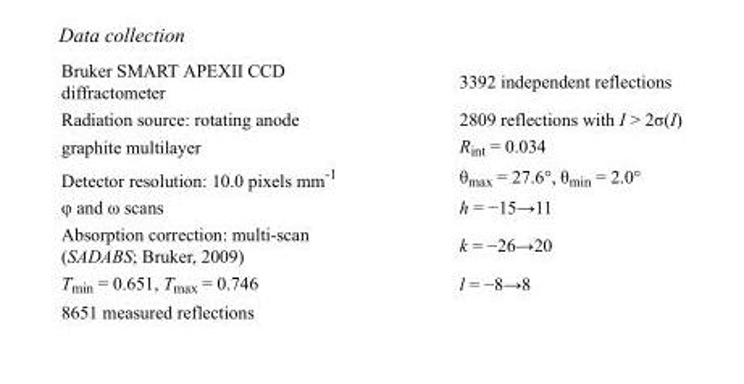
<table><tbody><tr><td>Bruker SMART APEXII CCD diffractometer</td><td>3392 independent reflections</td></tr><tr><td>Radiation source: rotating anode</td><td>2809 reflections with I &gt; 2σ(I)</td></tr><tr><td>graphite multilayer</td><td>R<sub>int</sub> = 0.034</td></tr><tr><td>Detector resolution: 10.0 pixels mm<sup>-1</sup></td><td>θ<sub>max</sub> = 27.6°, θ<sub>min</sub> = 2.0°</td></tr><tr><td>φ and ω scans</td><td>h = −15→11</td></tr><tr><td>Absorption correction: multi-scan (SADABS; Bruker, 2009)</td><td>k = −26→20</td></tr><tr><td>T<sub>min</sub> = 0.651, T<sub>max</sub> = 0.746</td><td>l = −8→8</td></tr><tr><td>8651 measured reflections</td><td></td></tr></tbody></table>